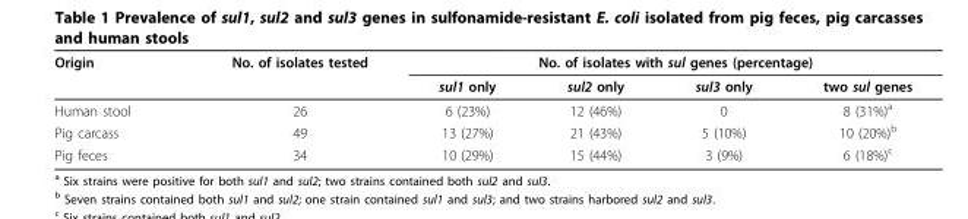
<table><thead><tr><td rowspan="2">Origin</td><td rowspan="2">No. of isolates tested</td><td colspan="4">No. of isolates with sul genes (percentage)</td></tr><tr><td>sul1 only</td><td>sul2 only</td><td>sul3 only</td><td>two sul genes</td></tr></thead><tbody><tr><td>Human stool</td><td>26</td><td>6 (23%)</td><td>12 (46%)</td><td>0</td><td>8 (31%)<sup>a</sup></td></tr><tr><td>Pig carcass</td><td>49</td><td>13 (27%)</td><td>21 (43%)</td><td>5 (10%)</td><td>10 (20%)<sup>b</sup></td></tr><tr><td>Pig feces</td><td>34</td><td>10 (29%)</td><td>15 (44%)</td><td>3 (9%)</td><td>6 (18%)<sup>c</sup></td></tr></tbody></table>